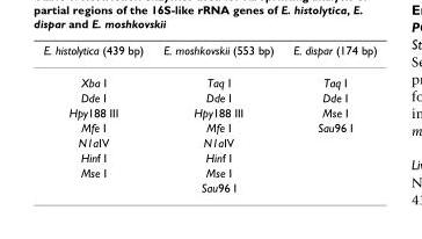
<table><thead><tr><td>E. histolytica (439 bp)</td><td>E. moshkovskii (553 bp)</td><td>E. dispar (174 bp)</td></tr></thead><tbody><tr><td>Xba I</td><td>Taq I</td><td>Taq I</td></tr><tr><td>Dde I</td><td>Dde I</td><td>Dde I</td></tr><tr><td>Hpy188 III</td><td>Hpy188 III</td><td>Mse I</td></tr><tr><td>Mfe I</td><td>Mfe I</td><td>Sau96 I</td></tr><tr><td>N1aIV</td><td>N1aIV</td><td></td></tr><tr><td>Hinf I</td><td>Hinf I</td><td></td></tr><tr><td rowspan="2">Mse I</td><td>Mse I</td><td></td></tr><tr><td>Sau96 I</td><td></td></tr></tbody></table>